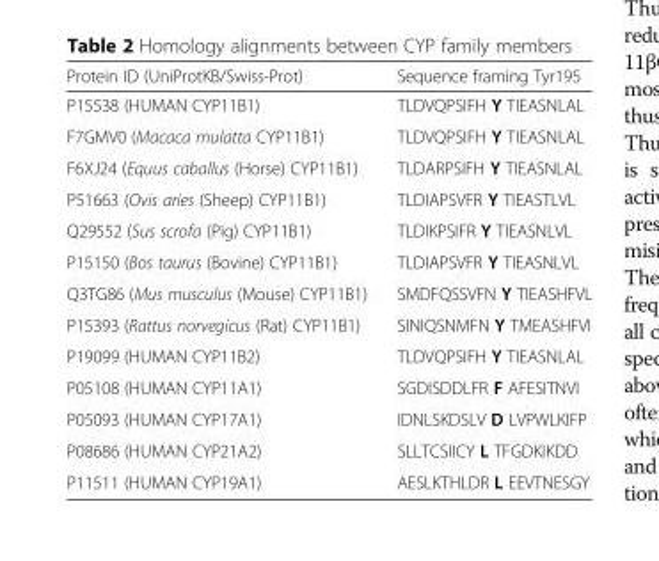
<table><thead><tr><td>Protein ID (UniProtKB/Swiss-Prot)</td><td>Sequence framing Tyr195</td></tr></thead><tbody><tr><td>P15538 (HUMAN CYP11B1)</td><td>TLDVQPSIFH Y TIEASNLAL</td></tr><tr><td>F7GMV0 (Macaca mulatta CYP11B1)</td><td>TLDVQPSIFH Y TIEASNLAL</td></tr><tr><td>F6XJ24 (Equus caballus (Horse) CYP11B1)</td><td>TLDARPSIFH Y TIEASNLAL</td></tr><tr><td>P51663 (Ovis aries (Sheep) CYP11B1)</td><td>TLDIAPSVFR Y TIEASTLVL</td></tr><tr><td>Q29552 (Sus scrofa (Pig) CYP11B1)</td><td>TLDIKPSIFR Y TIEASNLVL</td></tr><tr><td>P15150 (Bos taurus (Bovine) CYP11B1)</td><td>TLDIAPSVFR Y TIEASNLVL</td></tr><tr><td>Q3TG86 (Mus musculus (Mouse) CYP11B1)</td><td>SMDFQSSVFN Y TIEASHFVL</td></tr><tr><td>P15393 (Rattus norvegicus (Rat) CYP11B1)</td><td>SINIQSNMFN Y TMEASHFVI</td></tr><tr><td>P19099 (HUMAN CYP11B2)</td><td>TLDVQPSIFH Y TIEASNLAL</td></tr><tr><td>P05108 (HUMAN CYP11A1)</td><td>SGDISDDLFR F AFESITNVI</td></tr><tr><td>P05093 (HUMAN CYP17A1)</td><td>IDNLSKDSLV D LVPWLKIFP</td></tr><tr><td>P08686 (HUMAN CYP21A2)</td><td>SLLTCSIICY L TFGDKIKDD</td></tr><tr><td>P11511 (HUMAN CYP19A1)</td><td>AESLKTHLDR L EEVTNESGY</td></tr></tbody></table>